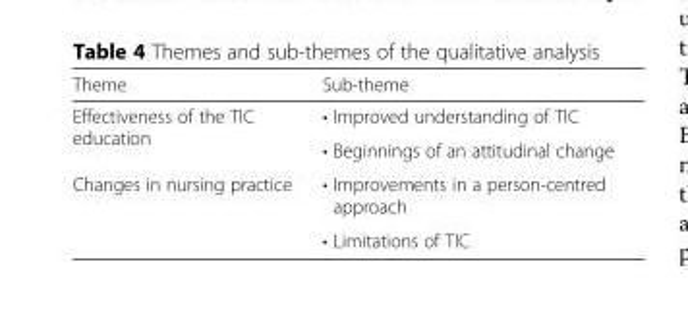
<table><thead><tr><td>Theme</td><td>Sub-theme</td></tr></thead><tbody><tr><td rowspan="2">Effectiveness of the TIC education</td><td>• Improved understanding of TIC</td></tr><tr><td>• Beginnings of an attitudinal change</td></tr><tr><td rowspan="2">Changes in nursing practice</td><td>• Improvements in a person-centred approach</td></tr><tr><td>• Limitations of TIC</td></tr></tbody></table>